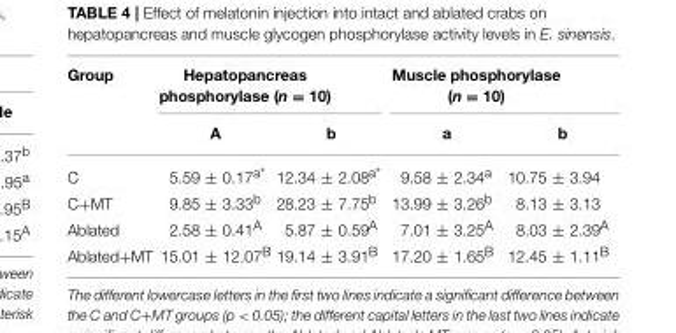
<table><thead><tr><td rowspan="2">Group</td><td colspan="2">Hepatopancreas phosphorylase (n = 10)</td><td colspan="2">Muscle phosphorylase (n = 10)</td></tr><tr><td>A</td><td>b</td><td>a</td><td>b</td></tr></thead><tbody><tr><td>C</td><td>5.59 ± 0.17<sup>a*</sup></td><td>12.34 ± 2.08<sup>a*</sup></td><td>9.58 ± 2.34<sup>a</sup></td><td>10.75 ± 3.94</td></tr><tr><td>C+MT</td><td>9.85 ± 3.33<sup>b</sup></td><td>28.23 ± 7.75<sup>b</sup></td><td>13.99 ± 3.26<sup>b</sup></td><td>8.13 ± 3.13</td></tr><tr><td>Ablated</td><td>2.58 ± 0.41<sup>A</sup></td><td>5.87 ± 0.59<sup>A</sup></td><td>7.01 ± 3.25<sup>A</sup></td><td>8.03 ± 2.39<sup>A</sup></td></tr><tr><td>Ablated+MT</td><td>15.01 ± 12.07<sup>B</sup></td><td>19.14 ± 3.91<sup>B</sup></td><td>17.20 ± 1.65<sup>B</sup></td><td>12.45 ± 1.11<sup>B</sup></td></tr></tbody></table>